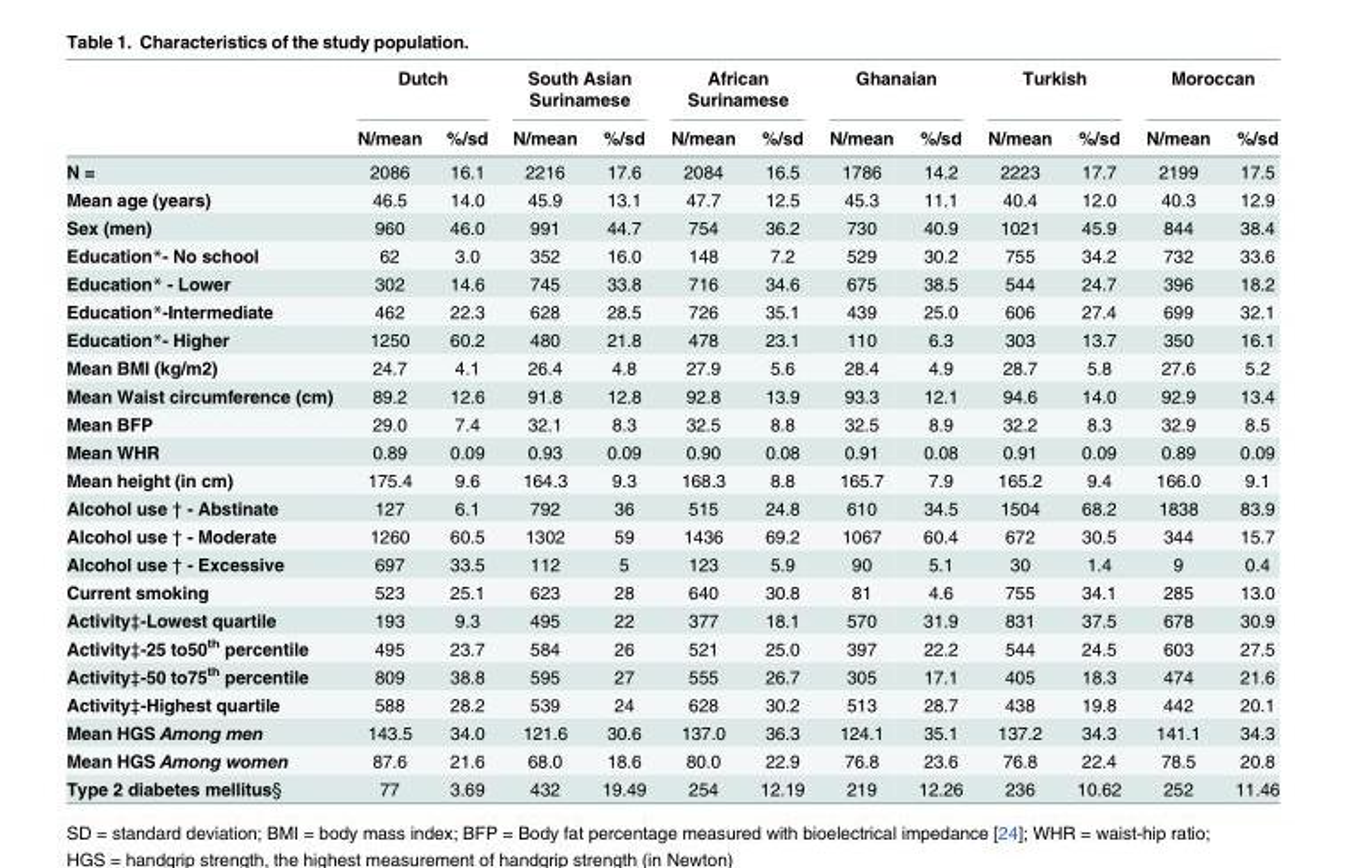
<table><thead><tr><td rowspan="2"></td><td colspan="2">Dutch</td><td colspan="2">South Asian Surinamese</td><td colspan="2">African Surinamese</td><td colspan="2">Ghanaian</td><td colspan="2">Turkish</td><td colspan="2">Moroccan</td></tr><tr><td>N/mean</td><td>%/sd</td><td>N/mean</td><td>%/sd</td><td>N/mean</td><td>%/sd</td><td>N/mean</td><td>%/sd</td><td>N/mean</td><td>%/sd</td><td>N/mean</td><td>%/sd</td></tr></thead><tbody><tr><td>N =</td><td>2086</td><td>16.1</td><td>2216</td><td>17.6</td><td>2084</td><td>16.5</td><td>1786</td><td>14.2</td><td>2223</td><td>17.7</td><td>2199</td><td>17.5</td></tr><tr><td>Mean age (years)</td><td>46.5</td><td>14.0</td><td>45.9</td><td>13.1</td><td>47.7</td><td>12.5</td><td>45.3</td><td>11.1</td><td>40.4</td><td>12.0</td><td>40.3</td><td>12.9</td></tr><tr><td>Sex (men)</td><td>960</td><td>46.0</td><td>991</td><td>44.7</td><td>754</td><td>36.2</td><td>730</td><td>40.9</td><td>1021</td><td>45.9</td><td>844</td><td>38.4</td></tr><tr><td>Education*- No school</td><td>62</td><td>3.0</td><td>352</td><td>16.0</td><td>148</td><td>7.2</td><td>529</td><td>30.2</td><td>755</td><td>34.2</td><td>732</td><td>33.6</td></tr><tr><td>Education* - Lower</td><td>302</td><td>14.6</td><td>745</td><td>33.8</td><td>716</td><td>34.6</td><td>675</td><td>38.5</td><td>544</td><td>24.7</td><td>396</td><td>18.2</td></tr><tr><td>Education*-Intermediate</td><td>462</td><td>22.3</td><td>628</td><td>28.5</td><td>726</td><td>35.1</td><td>439</td><td>25.0</td><td>606</td><td>27.4</td><td>699</td><td>32.1</td></tr><tr><td>Education*- Higher</td><td>1250</td><td>60.2</td><td>480</td><td>21.8</td><td>478</td><td>23.1</td><td>110</td><td>6.3</td><td>303</td><td>13.7</td><td>350</td><td>16.1</td></tr><tr><td>Mean BMI (kg/m2)</td><td>24.7</td><td>4.1</td><td>26.4</td><td>4.8</td><td>27.9</td><td>5.6</td><td>28.4</td><td>4.9</td><td>28.7</td><td>5.8</td><td>27.6</td><td>5.2</td></tr><tr><td>Mean Waist circumference (cm)</td><td>89.2</td><td>12.6</td><td>91.8</td><td>12.8</td><td>92.8</td><td>13.9</td><td>93.3</td><td>12.1</td><td>94.6</td><td>14.0</td><td>92.9</td><td>13.4</td></tr><tr><td>Mean BFP</td><td>29.0</td><td>7.4</td><td>32.1</td><td>8.3</td><td>32.5</td><td>8.8</td><td>32.5</td><td>8.9</td><td>32.2</td><td>8.3</td><td>32.9</td><td>8.5</td></tr><tr><td>Mean WHR</td><td>0.89</td><td>0.09</td><td>0.93</td><td>0.09</td><td>0.90</td><td>0.08</td><td>0.91</td><td>0.08</td><td>0.91</td><td>0.09</td><td>0.89</td><td>0.09</td></tr><tr><td>Mean height (in cm)</td><td>175.4</td><td>9.6</td><td>164.3</td><td>9.3</td><td>168.3</td><td>8.8</td><td>165.7</td><td>7.9</td><td>165.2</td><td>9.4</td><td>166.0</td><td>9.1</td></tr><tr><td>Alcohol use † - Abstinate</td><td>127</td><td>6.1</td><td>792</td><td>36</td><td>515</td><td>24.8</td><td>610</td><td>34.5</td><td>1504</td><td>68.2</td><td>1838</td><td>83.9</td></tr><tr><td>Alcohol use † - Moderate</td><td>1260</td><td>60.5</td><td>1302</td><td>59</td><td>1436</td><td>69.2</td><td>1067</td><td>60.4</td><td>672</td><td>30.5</td><td>344</td><td>15.7</td></tr><tr><td>Alcohol use † - Excessive</td><td>697</td><td>33.5</td><td>112</td><td>5</td><td>123</td><td>5.9</td><td>90</td><td>5.1</td><td>30</td><td>1.4</td><td>9</td><td>0.4</td></tr><tr><td>Current smoking</td><td>523</td><td>25.1</td><td>623</td><td>28</td><td>640</td><td>30.8</td><td>81</td><td>4.6</td><td>755</td><td>34.1</td><td>285</td><td>13.0</td></tr><tr><td>Activity‡-Lowest quartile</td><td>193</td><td>9.3</td><td>495</td><td>22</td><td>377</td><td>18.1</td><td>570</td><td>31.9</td><td>831</td><td>37.5</td><td>678</td><td>30.9</td></tr><tr><td>Activity‡-25 to50<sup>th</sup> percentile</td><td>495</td><td>23.7</td><td>584</td><td>26</td><td>521</td><td>25.0</td><td>397</td><td>22.2</td><td>544</td><td>24.5</td><td>603</td><td>27.5</td></tr><tr><td>Activity‡-50 to75<sup>th</sup> percentile</td><td>809</td><td>38.8</td><td>595</td><td>27</td><td>555</td><td>26.7</td><td>305</td><td>17.1</td><td>405</td><td>18.3</td><td>474</td><td>21.6</td></tr><tr><td>Activity‡-Highest quartile</td><td>588</td><td>28.2</td><td>539</td><td>24</td><td>628</td><td>30.2</td><td>513</td><td>28.7</td><td>438</td><td>19.8</td><td>442</td><td>20.1</td></tr><tr><td>Mean HGS Among men</td><td>143.5</td><td>34.0</td><td>121.6</td><td>30.6</td><td>137.0</td><td>36.3</td><td>124.1</td><td>35.1</td><td>137.2</td><td>34.3</td><td>141.1</td><td>34.3</td></tr><tr><td>Mean HGS Among women</td><td>87.6</td><td>21.6</td><td>68.0</td><td>18.6</td><td>80.0</td><td>22.9</td><td>76.8</td><td>23.6</td><td>76.8</td><td>22.4</td><td>78.5</td><td>20.8</td></tr><tr><td>Type 2 diabetes mellitus§</td><td>77</td><td>3.69</td><td>432</td><td>19.49</td><td>254</td><td>12.19</td><td>219</td><td>12.26</td><td>236</td><td>10.62</td><td>252</td><td>11.46</td></tr></tbody></table>